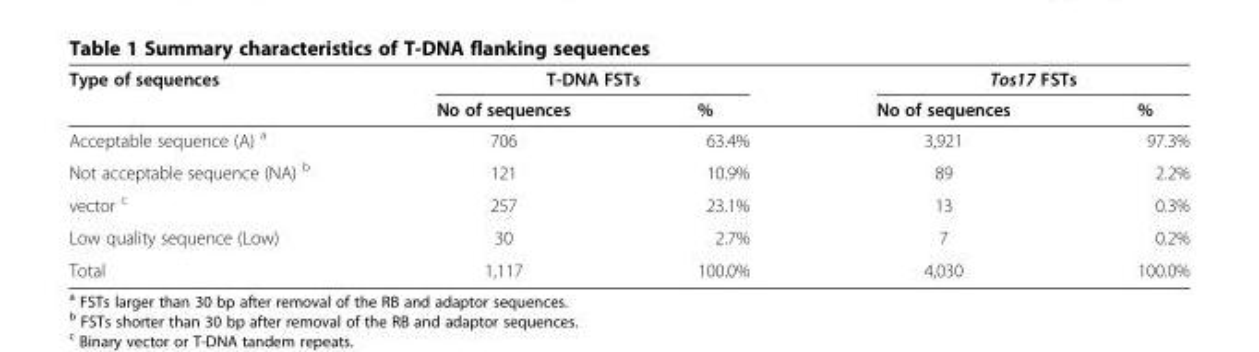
<table><thead><tr><td rowspan="2">Type of sequences</td><td colspan="2">T-DNA FSTs</td><td colspan="2">Tos17 FSTs</td></tr><tr><td>No of sequences</td><td>%</td><td>No of sequences</td><td>%</td></tr></thead><tbody><tr><td>Acceptable sequence (A) <sup>a</sup></td><td>706</td><td>63.4%</td><td>3,921</td><td>97.3%</td></tr><tr><td>Not acceptable sequence (NA) <sup>b</sup></td><td>121</td><td>10.9%</td><td>89</td><td>2.2%</td></tr><tr><td>vector <sup>c</sup></td><td>257</td><td>23.1%</td><td>13</td><td>0.3%</td></tr><tr><td>Low quality sequence (Low)</td><td>30</td><td>2.7%</td><td>7</td><td>0.2%</td></tr><tr><td>Total</td><td>1,117</td><td>100.0%</td><td>4,030</td><td>100.0%</td></tr></tbody></table>